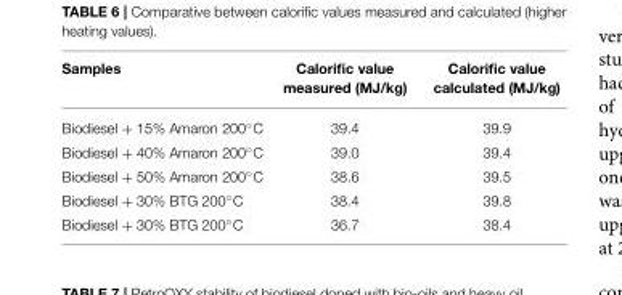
<table><thead><tr><td>Samples</td><td>Calorific value measured (MJ/kg)</td><td>Calorific value calculated (MJ/kg)</td></tr></thead><tbody><tr><td>Biodiesel + 15% Amaron 200◦C</td><td>39.4</td><td>39.9</td></tr><tr><td>Biodiesel + 40% Amaron 200◦C</td><td>39.0</td><td>39.4</td></tr><tr><td>Biodiesel + 50% Amaron 200◦C</td><td>38.6</td><td>39.5</td></tr><tr><td>Biodiesel + 30% BTG 200◦C</td><td>38.4</td><td>39.8</td></tr><tr><td>Biodiesel + 30% BTG 200◦C</td><td>36.7</td><td>38.4</td></tr></tbody></table>